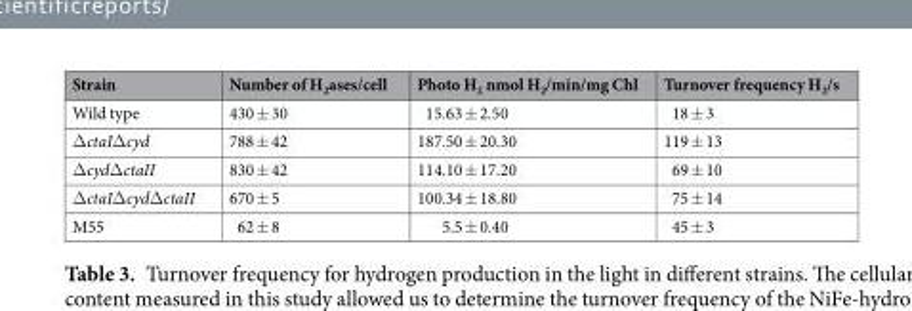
<table><thead><tr><td>Strain</td><td>Number of H<sub>2</sub>ases/cell</td><td>Photo H<sub>2</sub> nmol H<sub>2</sub>/min/mg Chl</td><td>Turnover frequency H<sub>2</sub>/s</td></tr></thead><tbody><tr><td>Wild type</td><td>430 ± 30</td><td>15.63 ± 2.50</td><td>18 ± 3</td></tr><tr><td>ΔctaIΔcyd</td><td>788 ± 42</td><td>187.50 ± 20.30</td><td>119 ± 13</td></tr><tr><td>ΔcydΔctaII</td><td>830 ± 42</td><td>114.10 ± 17.20</td><td>69 ± 10</td></tr><tr><td>ΔctaIΔcydΔctaII</td><td>670 ± 5</td><td>100.34 ± 18.80</td><td>75 ± 14</td></tr><tr><td>M55</td><td>62 ± 8</td><td>5.5 ± 0.40</td><td>45 ± 3</td></tr></tbody></table>